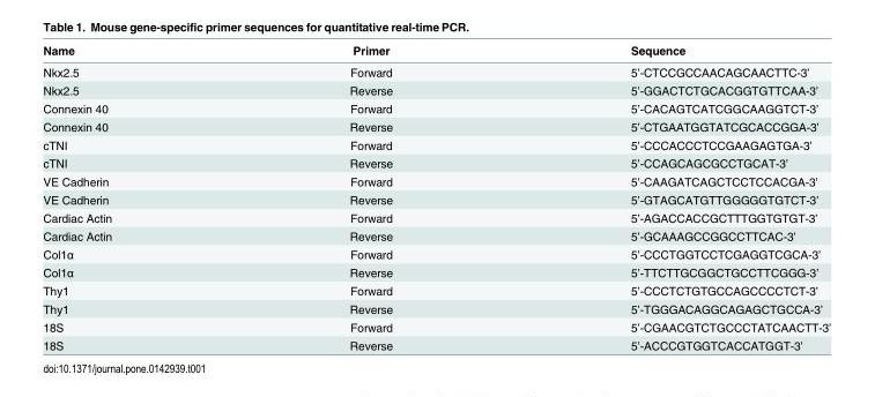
<table><thead><tr><td>Name</td><td>Primer</td><td>Sequence</td></tr></thead><tbody><tr><td>Nkx2.5</td><td>Forward</td><td>5’-CTCCGCCAACAGCAACTTC-3’</td></tr><tr><td>Nkx2.5</td><td>Reverse</td><td>5’-GGACTCTGCACGGTGTTCAA-3’</td></tr><tr><td>Connexin 40</td><td>Forward</td><td>5’-CACAGTCATCGGCAAGGTCT-3’</td></tr><tr><td>Connexin 40</td><td>Reverse</td><td>5’-CTGAATGGTATCGCACCGGA-3’</td></tr><tr><td>cTNI</td><td>Forward</td><td>5’-CCCACCCTCCGAAGAGTGA-3’</td></tr><tr><td>cTNI</td><td>Reverse</td><td>5’-CCAGCAGCGCCTGCAT-3’</td></tr><tr><td>VE Cadherin</td><td>Forward</td><td>5’-CAAGATCAGCTCCTCCACGA-3’</td></tr><tr><td>VE Cadherin</td><td>Reverse</td><td>5’-GTAGCATGTTGGGGGTGTCT-3’</td></tr><tr><td>Cardiac Actin</td><td>Forward</td><td>5’-AGACCACCGCTTTGGTGTGT-3’</td></tr><tr><td>Cardiac Actin</td><td>Reverse</td><td>5’-GCAAAGCCGGCCTTCAC-3’</td></tr><tr><td>Col1α</td><td>Forward</td><td>5’-CCCTGGTCCTCGAGGTCGCA-3’</td></tr><tr><td>Col1α</td><td>Reverse</td><td>5’-TTCTTGCGGCTGCCTTCGGG-3’</td></tr><tr><td>Thy1</td><td>Forward</td><td>5’-CCCTCTGTGCCAGCCCCTCT-3’</td></tr><tr><td>Thy1</td><td>Reverse</td><td>5’-TGGGACAGGCAGAGCTGCCA-3’</td></tr><tr><td>18S</td><td>Forward</td><td>5’-CGAACGTCTGCCCTATCAACTT-3’</td></tr><tr><td>18S</td><td>Reverse</td><td>5’-ACCCGTGGTCACCATGGT-3’</td></tr></tbody></table>